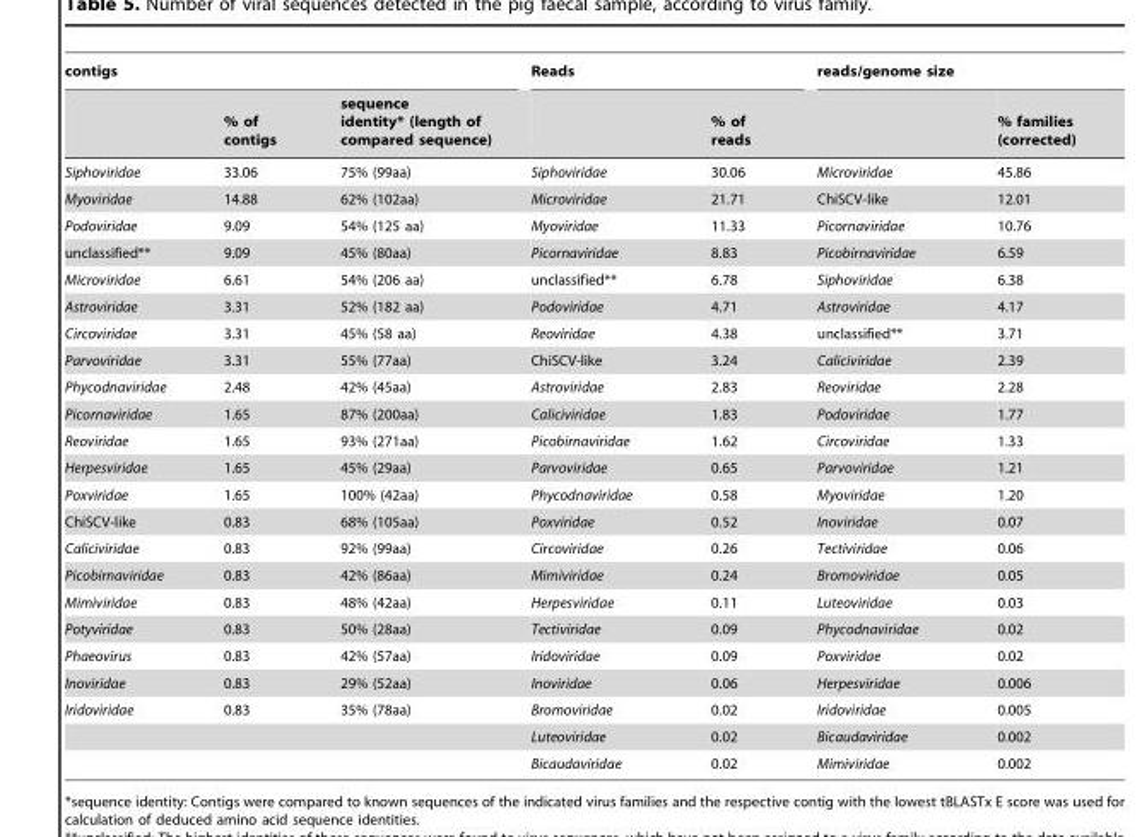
<table><thead><tr><td colspan="3">contigs</td><td colspan="2">Reads</td><td colspan="2">reads/genome size</td></tr><tr><td></td><td>% of contigs</td><td>sequence identity* (length of compared sequence)</td><td></td><td>% of reads</td><td></td><td>% families (corrected)</td></tr></thead><tbody><tr><td>Siphoviridae</td><td>33.06</td><td>75% (99aa)</td><td>Siphoviridae</td><td>30.06</td><td>Microviridae</td><td>45.86</td></tr><tr><td>Myoviridae</td><td>14.88</td><td>62% (102aa)</td><td>Microviridae</td><td>21.71</td><td>ChiSCV-like</td><td>12.01</td></tr><tr><td>Podoviridae</td><td>9.09</td><td>54% (125 aa)</td><td>Myoviridae</td><td>11.33</td><td>Picornaviridae</td><td>10.76</td></tr><tr><td>unclassified**</td><td>9.09</td><td>45% (80aa)</td><td>Picornaviridae</td><td>8.83</td><td>Picobirnaviridae</td><td>6.59</td></tr><tr><td>Microviridae</td><td>6.61</td><td>54% (206 aa)</td><td>unclassified**</td><td>6.78</td><td>Siphoviridae</td><td>6.38</td></tr><tr><td>Astroviridae</td><td>3.31</td><td>52% (182 aa)</td><td>Podoviridae</td><td>4.71</td><td>Astroviridae</td><td>4.17</td></tr><tr><td>Circoviridae</td><td>3.31</td><td>45% (58 aa)</td><td>Reoviridae</td><td>4.38</td><td>unclassified**</td><td>3.71</td></tr><tr><td>Parvoviridae</td><td>3.31</td><td>55% (77aa)</td><td>ChiSCV-like</td><td>3.24</td><td>Caliciviridae</td><td>2.39</td></tr><tr><td>Phycodnaviridae</td><td>2.48</td><td>42% (45aa)</td><td>Astroviridae</td><td>2.83</td><td>Reoviridae</td><td>2.28</td></tr><tr><td>Picornaviridae</td><td>1.65</td><td>87% (200aa)</td><td>Caliciviridae</td><td>1.83</td><td>Podoviridae</td><td>1.77</td></tr><tr><td>Reoviridae</td><td>1.65</td><td>93% (271aa)</td><td>Picobirnaviridae</td><td>1.62</td><td>Circoviridae</td><td>1.33</td></tr><tr><td>Herpesviridae</td><td>1.65</td><td>45% (29aa)</td><td>Parvoviridae</td><td>0.65</td><td>Parvoviridae</td><td>1.21</td></tr><tr><td>Poxviridae</td><td>1.65</td><td>100% (42aa)</td><td>Phycodnaviridae</td><td>0.58</td><td>Myoviridae</td><td>1.20</td></tr><tr><td>ChiSCV-like</td><td>0.83</td><td>68% (105aa)</td><td>Poxviridae</td><td>0.52</td><td>Inoviridae</td><td>0.07</td></tr><tr><td>Caliciviridae</td><td>0.83</td><td>92% (99aa)</td><td>Circoviridae</td><td>0.26</td><td>Tectiviridae</td><td>0.06</td></tr><tr><td>Picobirnaviridae</td><td>0.83</td><td>42% (86aa)</td><td>Mimiviridae</td><td>0.24</td><td>Bromoviridae</td><td>0.05</td></tr><tr><td>Mimiviridae</td><td>0.83</td><td>48% (42aa)</td><td>Herpesviridae</td><td>0.11</td><td>Luteoviridae</td><td>0.03</td></tr><tr><td>Potyviridae</td><td>0.83</td><td>50% (28aa)</td><td>Tectiviridae</td><td>0.09</td><td>Phycodnaviridae</td><td>0.02</td></tr><tr><td>Phaeovirus</td><td>0.83</td><td>42% (57aa)</td><td>Iridoviridae</td><td>0.09</td><td>Poxviridae</td><td>0.02</td></tr><tr><td>Inoviridae</td><td>0.83</td><td>29% (52aa)</td><td>Inoviridae</td><td>0.06</td><td>Herpesviridae</td><td>0.006</td></tr><tr><td rowspan="3">Iridoviridae</td><td>0.83</td><td>35% (78aa)</td><td>Bromoviridae</td><td>0.02</td><td>Iridoviridae</td><td>0.005</td></tr><tr><td></td><td></td><td>Luteoviridae</td><td>0.02</td><td>Bicaudaviridae</td><td>0.002</td></tr><tr><td></td><td></td><td>Bicaudaviridae</td><td>0.02</td><td>Mimiviridae</td><td>0.002</td></tr></tbody></table>